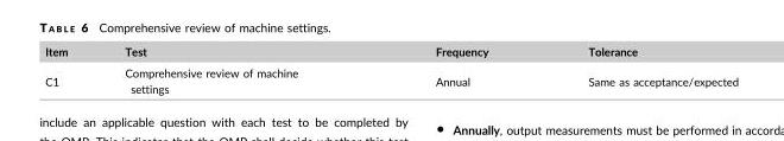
<table><thead><tr><td>Item</td><td>Test</td><td>Frequency</td><td>Tolerance</td></tr></thead><tbody><tr><td>C1</td><td>Comprehensive review of machine settings</td><td>Annual</td><td>Same as acceptance/expected</td></tr></tbody></table>